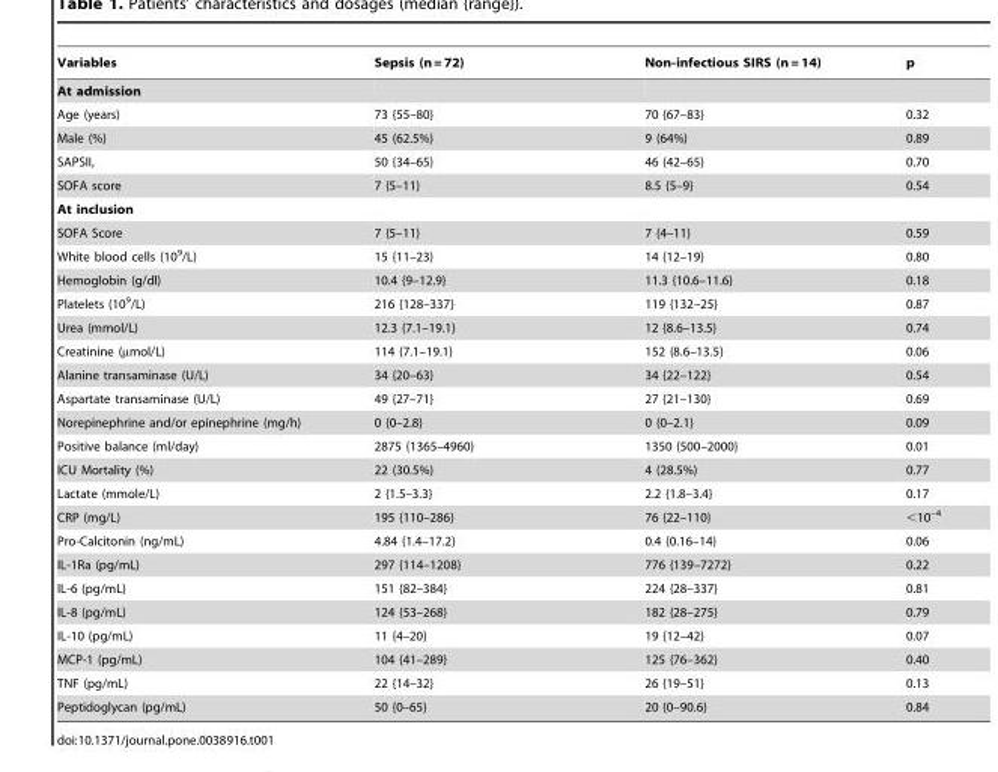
<table><thead><tr><td>Variables</td><td>Sepsis (n = 72)</td><td>Non-infectious SIRS (n = 14)</td><td>p</td></tr></thead><tbody><tr><td colspan="4">At admission</td></tr><tr><td>Age (years)</td><td>73 {55–80}</td><td>70 {67–83}</td><td>0.32</td></tr><tr><td>Male (%)</td><td>45 (62.5%}</td><td>9 (64%)</td><td>0.89</td></tr><tr><td>SAPSII,</td><td>50 {34–65}</td><td>46 {42–65}</td><td>0.70</td></tr><tr><td>SOFA score</td><td>7 {5–11}</td><td>8.5 {5–9}</td><td>0.54</td></tr><tr><td colspan="4">At inclusion</td></tr><tr><td>SOFA Score</td><td>7 {5–11}</td><td>7 {4–11}</td><td>0.59</td></tr><tr><td>White blood cells (10<sup>9</sup>/L)</td><td>15 {11–23}</td><td>14 {12–19}</td><td>0.80</td></tr><tr><td>Hemoglobin (g/dl)</td><td>10.4 {9–12.9}</td><td>11.3 {10.6–11.6}</td><td>0.18</td></tr><tr><td>Platelets (10<sup>9</sup>/L)</td><td>216 {128–337}</td><td>119 {132–25}</td><td>0.87</td></tr><tr><td>Urea (mmol/L)</td><td>12.3 {7.1–19.1}</td><td>12 {8.6–13.5}</td><td>0.74</td></tr><tr><td>Creatinine (µmol/L)</td><td>114 {7.1–19.1}</td><td>152 {8.6–13.5}</td><td>0.06</td></tr><tr><td>Alanine transaminase (U/L)</td><td>34 {20–63}</td><td>34 {22–122}</td><td>0.54</td></tr><tr><td>Aspartate transaminase (U/L)</td><td>49 {27–71}</td><td>27 {21–130}</td><td>0.69</td></tr><tr><td>Norepinephrine and/or epinephrine (mg/h)</td><td>0 {0–2.8}</td><td>0 {0–2.1}</td><td>0.09</td></tr><tr><td>Positive balance (ml/day)</td><td>2875 {1365–4960}</td><td>1350 {500–2000}</td><td>0.01</td></tr><tr><td>ICU Mortality (%)</td><td>22 (30.5%)</td><td>4 (28.5%)</td><td>0.77</td></tr><tr><td>Lactate (mmole/L)</td><td>2 {1.5–3.3}</td><td>2.2 {1.8–3.4}</td><td>0.17</td></tr><tr><td>CRP (mg/L)</td><td>195 {110–286}</td><td>76 {22–110}</td><td>&lt;10<sup>–4</sup></td></tr><tr><td>Pro-Calcitonin (ng/mL)</td><td>4.84 {1.4–17.2}</td><td>0.4 {0.16–14}</td><td>0.06</td></tr><tr><td>IL-1Ra (pg/mL)</td><td>297 {114–1208}</td><td>776 {139–7272}</td><td>0.22</td></tr><tr><td>IL-6 (pg/mL)</td><td>151 {82–384}</td><td>224 {28–337}</td><td>0.81</td></tr><tr><td>IL-8 (pg/mL)</td><td>124 {53–268}</td><td>182 {28–275}</td><td>0.79</td></tr><tr><td>IL-10 (pg/mL)</td><td>11 {4–20}</td><td>19 {12–42}</td><td>0.07</td></tr><tr><td>MCP-1 (pg/mL)</td><td>104 {41–289}</td><td>125 {76–362}</td><td>0.40</td></tr><tr><td>TNF (pg/mL)</td><td>22 {14–32}</td><td>26 {19–51}</td><td>0.13</td></tr><tr><td>Peptidoglycan (pg/mL)</td><td>50 {0–65}</td><td>20 {0–90.6}</td><td>0.84</td></tr></tbody></table>